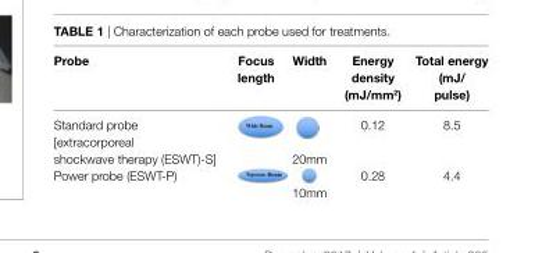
<table><thead><tr><td>Probe</td><td>Focus length</td><td>Width</td><td>energy density (mJ/mm<sup>2</sup>)</td><td>Total energy (mJ/ pulse)</td></tr></thead><tbody><tr><td>Standard probe [extracorporeal shockwave therapy (ESWT)-S]</td><td></td><td>20mm</td><td>0.12</td><td>8.5</td></tr><tr><td>Power probe (ESWT-P)</td><td></td><td>10mm</td><td>0.28</td><td>4.4</td></tr></tbody></table>